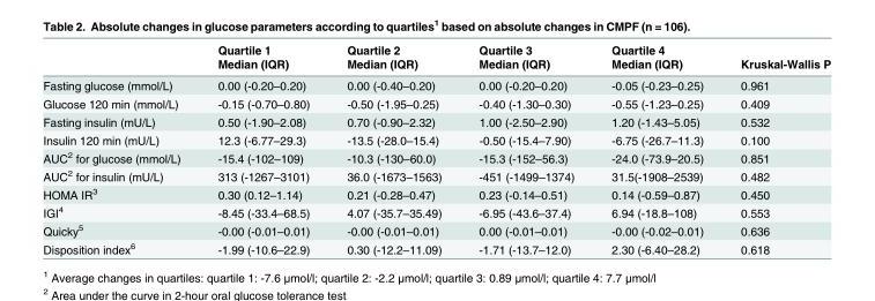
<table><thead><tr><td rowspan="2"></td><td rowspan="2">Quartile 1 Median (IQR)</td><td rowspan="2">Quartile 2 Median (IQR)</td><td rowspan="2">Quartile 3 Median (IQR)</td><td rowspan="2">Quartile 4 Median (IQR)</td><td rowspan="2">Kruskal-Wallis P</td></tr><tr></tr></thead><tbody><tr><td>Fasting glucose (mmol/L)</td><td>0.00 (-0.20–0.20)</td><td>0.00 (-0.40–0.20)</td><td>0.00 (-0.20–0.20)</td><td>-0.05 (-0.23–0.25)</td><td>0.961</td></tr><tr><td>Glucose 120 min (mmol/L)</td><td>-0.15 (-0.70–0.80)</td><td>-0.50 (-1.95–0.25)</td><td>-0.40 (-1.30–0.30)</td><td>-0.55 (-1.23–0.25)</td><td>0.409</td></tr><tr><td>Fasting insulin (mU/L)</td><td>0.50 (-1.90–2.08)</td><td>0.70 (-0.90–2.32)</td><td>1.00 (-2.50–2.90)</td><td>1.20 (-1.43–5.05)</td><td>0.532</td></tr><tr><td>Insulin 120 min (mU/L)</td><td>12.3 (-6.77–29.3)</td><td>-13.5 (-28.0–15.4)</td><td>-0.50 (-15.4–7.90)</td><td>-6.75 (-26.7–11.3)</td><td>0.100</td></tr><tr><td>AUC<sup>2</sup> for glucose (mmol/L)</td><td>-15.4 (-102–109)</td><td>-10.3 (-130–60.0)</td><td>-15.3 (-152–56.3)</td><td>-24.0 (-73.9–20.5)</td><td>0.851</td></tr><tr><td>AUC<sup>2</sup> for insulin (mU/L)</td><td>313 (-1267–3101)</td><td>36.0 (-1673–1563)</td><td>-451 (-1499–1374)</td><td>31.5(-1908–2539)</td><td>0.482</td></tr><tr><td>HOMA IR<sup>3</sup></td><td>0.30 (0.12–1.14)</td><td>0.21 (-0.28–0.47)</td><td>0.23 (-0.14–0.51)</td><td>0.14 (-0.59–0.87)</td><td>0.450</td></tr><tr><td>IGI<sup>4</sup></td><td>-8.45 (-33.4–68.5)</td><td>4.07 (-35.7–35.49)</td><td>-6.95 (-43.6–37.4)</td><td>6.94 (-18.8–108)</td><td>0.553</td></tr><tr><td>Quicky<sup>5</sup></td><td>-0.00 (-0.01–0.01)</td><td>-0.00 (-0.01–0.01)</td><td>0.00 (-0.01–0.01)</td><td>-0.00 (-0.02–0.01)</td><td>0.636</td></tr><tr><td>Disposition index<sup>6</sup></td><td>-1.99 (-10.6–22.9)</td><td>0.30 (-12.2–11.09)</td><td>-1.71 (-13.7–12.0)</td><td>2.30 (-6.40–28.2)</td><td>0.618</td></tr></tbody></table>